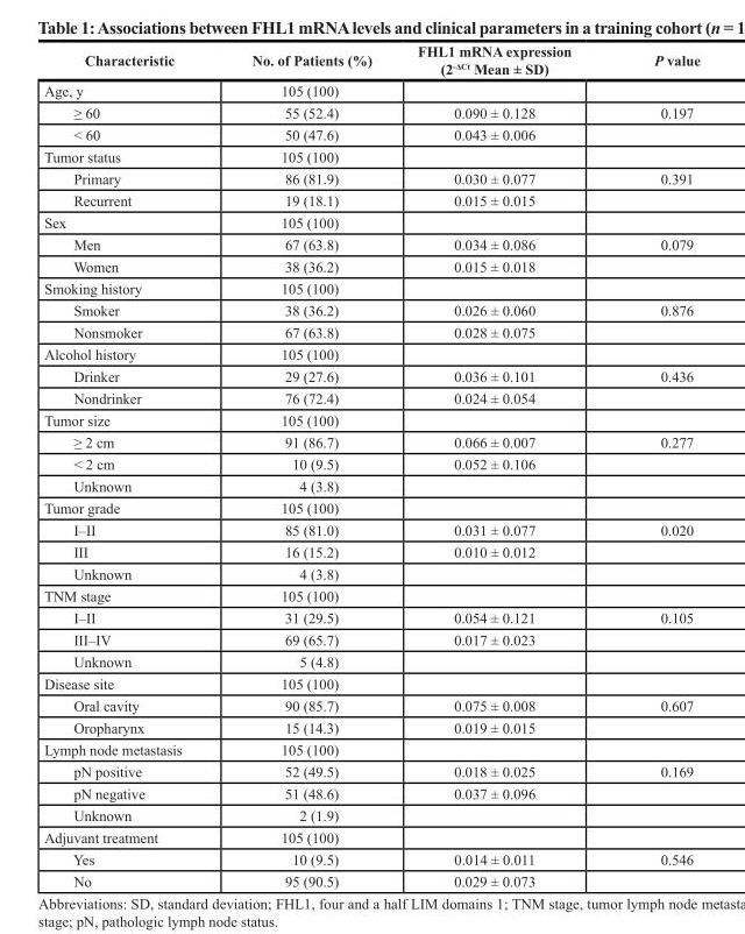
<table><thead><tr><td>Characteristic</td><td>No. of Patients (%)</td><td>FHL1 mRNA expression (2<sup>-ΔCt</sup> Mean ± SD)</td><td>P value</td></tr></thead><tbody><tr><td>Age, y</td><td>105 (100)</td><td></td><td></td></tr><tr><td>≥ 60</td><td>55 (52.4)</td><td>0.090 ± 0.128</td><td>0.197</td></tr><tr><td>&lt; 60</td><td>50 (47.6)</td><td>0.043 ± 0.006</td><td></td></tr><tr><td>Tumor status</td><td>105 (100)</td><td></td><td></td></tr><tr><td>Primary</td><td>86 (81.9)</td><td>0.030 ± 0.077</td><td>0.391</td></tr><tr><td>Recurrent</td><td>19 (18.1)</td><td>0.015 ± 0.015</td><td></td></tr><tr><td>Sex</td><td>105 (100)</td><td></td><td></td></tr><tr><td>Men</td><td>67 (63.8)</td><td>0.034 ± 0.086</td><td>0.079</td></tr><tr><td>Women</td><td>38 (36.2)</td><td>0.015 ± 0.018</td><td></td></tr><tr><td>Smoking history</td><td>105 (100)</td><td></td><td></td></tr><tr><td>Smoker</td><td>38 (36.2)</td><td>0.026 ± 0.060</td><td>0.876</td></tr><tr><td>Nonsmoker</td><td>67 (63.8)</td><td>0.028 ± 0.075</td><td></td></tr><tr><td>Alcohol history</td><td>105 (100)</td><td></td><td></td></tr><tr><td>Drinker</td><td>29 (27.6)</td><td>0.036 ± 0.101</td><td>0.436</td></tr><tr><td>Nondrinker</td><td>76 (72.4)</td><td>0.024 ± 0.054</td><td></td></tr><tr><td>Tumor size</td><td>105 (100)</td><td></td><td></td></tr><tr><td>≥ 2 cm</td><td>91 (86.7)</td><td>0.066 ± 0.007</td><td>0.277</td></tr><tr><td>&lt; 2 cm</td><td>10 (9.5)</td><td>0.052 ± 0.106</td><td></td></tr><tr><td>Unknown</td><td>4 (3.8)</td><td></td><td></td></tr><tr><td>Tumor grade</td><td>105 (100)</td><td></td><td></td></tr><tr><td>I–II</td><td>85 (81.0)</td><td>0.031 ± 0.077</td><td>0.020</td></tr><tr><td>III</td><td>16 (15.2)</td><td>0.010 ± 0.012</td><td></td></tr><tr><td>Unknown</td><td>4 (3.8)</td><td></td><td></td></tr><tr><td>TNM stage</td><td>105 (100)</td><td></td><td></td></tr><tr><td>I–II</td><td>31 (29.5)</td><td>0.054 ± 0.121</td><td>0.105</td></tr><tr><td>III–IV</td><td>69 (65.7)</td><td>0.017 ± 0.023</td><td></td></tr><tr><td>Unknown</td><td>5 (4.8)</td><td></td><td></td></tr><tr><td>Disease site</td><td>105 (100)</td><td></td><td></td></tr><tr><td>Oral cavity</td><td>90 (85.7)</td><td>0.075 ± 0.008</td><td>0.607</td></tr><tr><td>Oropharynx</td><td>15 (14.3)</td><td>0.019 ± 0.015</td><td></td></tr><tr><td>Lymph node metastasis</td><td>105 (100)</td><td></td><td></td></tr><tr><td>pN positive</td><td>52 (49.5)</td><td>0.018 ± 0.025</td><td>0.169</td></tr><tr><td>pN negative</td><td>51 (48.6)</td><td>0.037 ± 0.096</td><td></td></tr><tr><td>Unknown</td><td>2 (1.9)</td><td></td><td></td></tr><tr><td>Adjuvant treatment</td><td>105 (100)</td><td></td><td></td></tr><tr><td>Yes</td><td>10 (9.5)</td><td>0.014 ± 0.011</td><td>0.546</td></tr><tr><td>No</td><td>95 (90.5)</td><td>0.029 ± 0.073</td><td></td></tr></tbody></table>